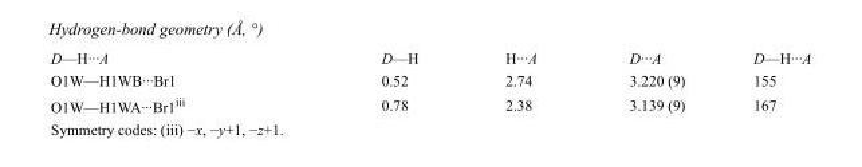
<table><tbody><tr><td>D—H···A</td><td>D—H</td><td>H···A</td><td>D···A</td><td>D—H···A</td></tr><tr><td>O1W—H1WB···Br1</td><td>0.52</td><td>2.74</td><td>3.220 (9)</td><td>155</td></tr><tr><td>O1W—H1WA···Br1<sup>iii</sup></td><td>0.78</td><td>2.38</td><td>3.139 (9)</td><td>167</td></tr></tbody></table>